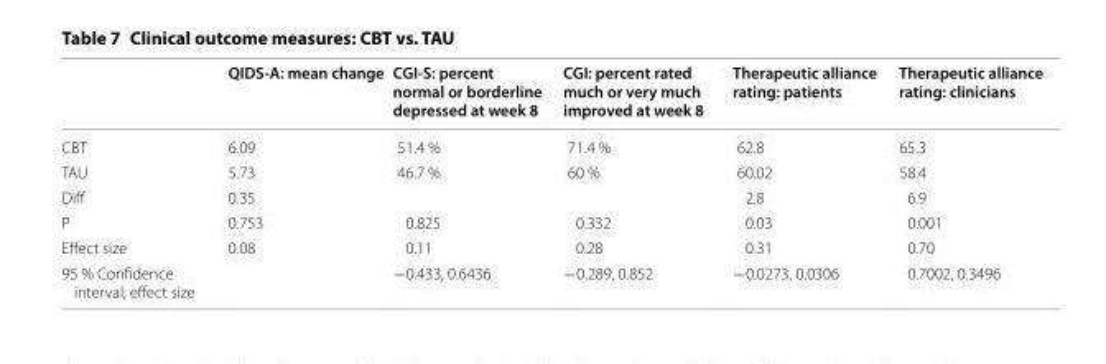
<table><thead><tr><td></td><td>QIDS‑A: mean change</td><td>CGI‑S: percent normal or borderline depressed at week 8</td><td>CGI: percent rated much or very much improved at week 8</td><td>Therapeutic alliance rating: patients</td><td>Therapeutic alliance rating: clinicians</td></tr></thead><tbody><tr><td>CBT</td><td>6.09</td><td>51.4 %</td><td>71.4 %</td><td>62.8</td><td>65.3</td></tr><tr><td>TAU</td><td>5.73</td><td>46.7 %</td><td>60 %</td><td>60.02</td><td>58.4</td></tr><tr><td>Diff</td><td>0.35</td><td></td><td></td><td>2.8</td><td>6.9</td></tr><tr><td>P</td><td>0.753</td><td>0.825</td><td>0.332</td><td>0.03</td><td>0.001</td></tr><tr><td>Effect size</td><td>0.08</td><td>0.11</td><td>0.28</td><td>0.31</td><td>0.70</td></tr><tr><td>95 % Confidence interval, effect size</td><td></td><td>−0.433, 0.6436</td><td>−0.289, 0.852</td><td>−0.0273, 0.0306</td><td>0.7002, 0.3496</td></tr></tbody></table>